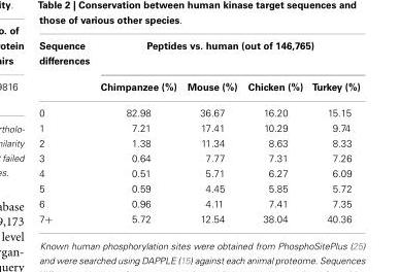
<table><thead><tr><td rowspan="2">Sequence differences</td><td colspan="4">Peptides vs. human (out of 146,765)</td></tr><tr><td>Chimpanzee (%)</td><td>Mouse (%)</td><td>Chicken (%)</td><td>Turkey (%)</td></tr></thead><tbody><tr><td>0</td><td>82.98</td><td>36.67</td><td>16.20</td><td>15.15</td></tr><tr><td>1</td><td>7.21</td><td>17.41</td><td>10.29</td><td>9.74</td></tr><tr><td>2</td><td>1.38</td><td>11.34</td><td>8.63</td><td>8.33</td></tr><tr><td>3</td><td>0.64</td><td>7.77</td><td>7.31</td><td>7.26</td></tr><tr><td>4</td><td>0.51</td><td>5.71</td><td>6.27</td><td>6.09</td></tr><tr><td>5</td><td>0.59</td><td>4.45</td><td>5.85</td><td>5.72</td></tr><tr><td>6</td><td>0.96</td><td>4.11</td><td>7.41</td><td>7.35</td></tr><tr><td>7+</td><td>5.72</td><td>12.54</td><td>38.04</td><td>40.36</td></tr></tbody></table>